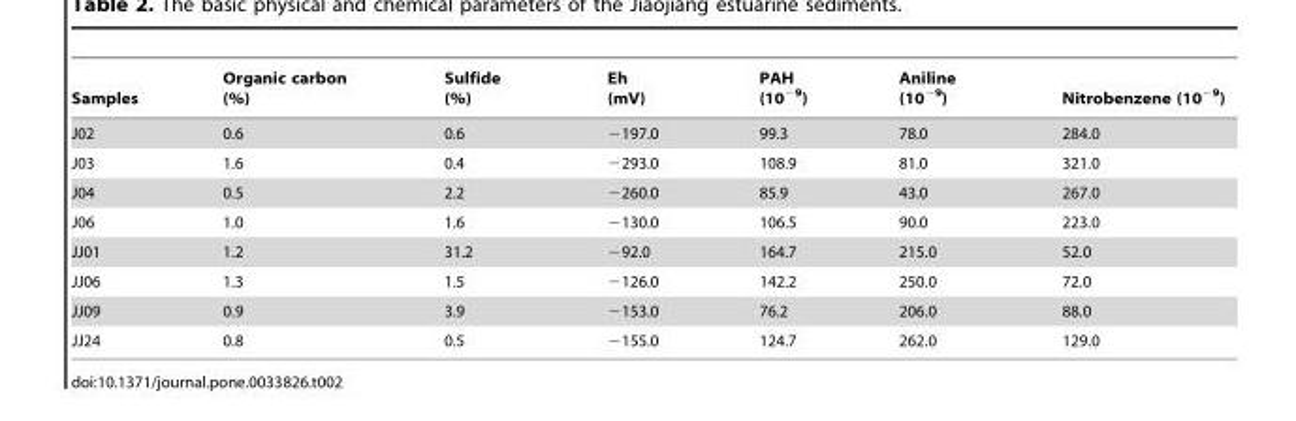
<table><thead><tr><td>Samples</td><td>Organic carbon (%)</td><td>Sulfide (%)</td><td>Eh (mV)</td><td>PAH (10<sup>−9</sup>)</td><td>Aniline (10<sup>−9</sup>)</td><td>Nitrobenzene (10<sup>−9</sup>)</td></tr></thead><tbody><tr><td>J02</td><td>0.6</td><td>0.6</td><td>−197.0</td><td>99.3</td><td>78.0</td><td>284.0</td></tr><tr><td>J03</td><td>1.6</td><td>0.4</td><td>−293.0</td><td>108.9</td><td>81.0</td><td>321.0</td></tr><tr><td>J04</td><td>0.5</td><td>2.2</td><td>−260.0</td><td>85.9</td><td>43.0</td><td>267.0</td></tr><tr><td>J06</td><td>1.0</td><td>1.6</td><td>−130.0</td><td>106.5</td><td>90.0</td><td>223.0</td></tr><tr><td>JJ01</td><td>1.2</td><td>31.2</td><td>−92.0</td><td>164.7</td><td>215.0</td><td>52.0</td></tr><tr><td>JJ06</td><td>1.3</td><td>1.5</td><td>−126.0</td><td>142.2</td><td>250.0</td><td>72.0</td></tr><tr><td>JJ09</td><td>0.9</td><td>3.9</td><td>−153.0</td><td>76.2</td><td>206.0</td><td>88.0</td></tr><tr><td>JJ24</td><td>0.8</td><td>0.5</td><td>−155.0</td><td>124.7</td><td>262.0</td><td>129.0</td></tr></tbody></table>